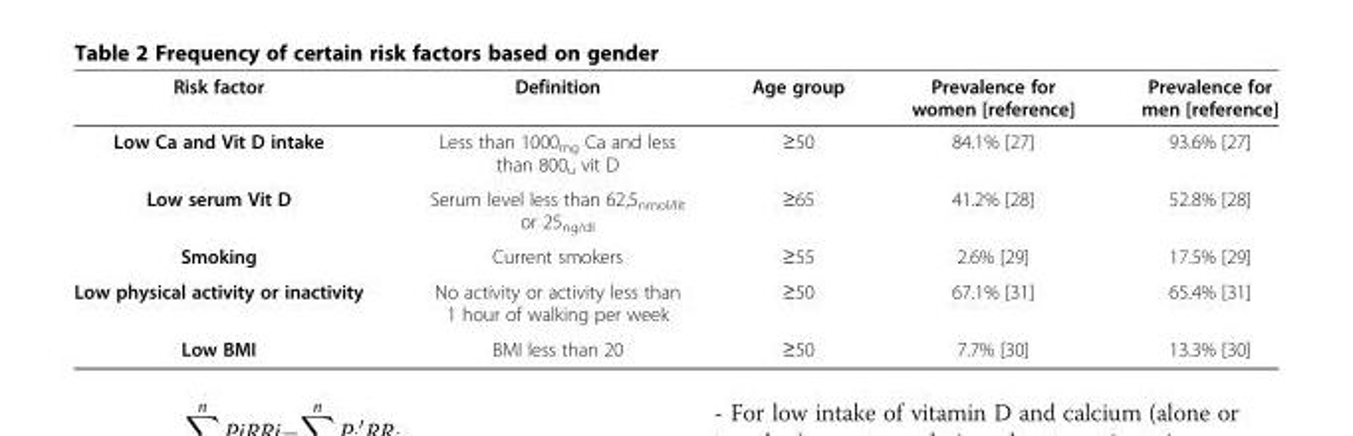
<table><thead><tr><td>Risk factor</td><td>Definition</td><td>Age group</td><td>Prevalence for women [reference]</td><td>Prevalence for men [reference]</td></tr></thead><tbody><tr><td>Low Ca and Vit D intake</td><td>Less than 1000<sub>mg</sub> Ca and less than 800<sub>u</sub> vit D</td><td>≥50</td><td>84.1% [27]</td><td>93.6% [27]</td></tr><tr><td>Low serum Vit D</td><td>Serum level less than 62,5<sub>nmol/lit</sub> or 25<sub>ng/dl</sub></td><td>≥65</td><td>41.2% [28]</td><td>52.8% [28]</td></tr><tr><td>Smoking</td><td>Current smokers</td><td>≥55</td><td>2.6% [29]</td><td>17.5% [29]</td></tr><tr><td>Low physical activity or inactivity</td><td>No activity or activity less than 1 hour of walking per week</td><td>≥50</td><td>67.1% [31]</td><td>65.4% [31]</td></tr><tr><td>Low BMI</td><td>BMI less than 20</td><td>≥50</td><td>7.7% [30]</td><td>13.3% [30]</td></tr></tbody></table>